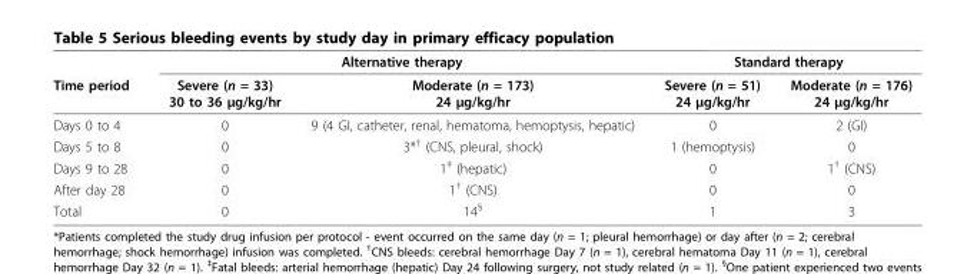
<table><thead><tr><td rowspan="2">Time period</td><td colspan="2">Alternative therapy</td><td colspan="2">Standard therapy</td></tr><tr><td>Severe (n = 33) 30 to 36 μg/kg/hr</td><td>Moderate (n = 173) 24 μg/kg/hr</td><td>Severe (n = 51) 24 μg/kg/hr</td><td>Moderate (n = 176) 24 μg/kg/hr</td></tr></thead><tbody><tr><td>Days 0 to 4</td><td>0</td><td>9 (4 GI, catheter, renal, hematoma, hemoptysis, hepatic)</td><td>0</td><td>2 (GI)</td></tr><tr><td>Days 5 to 8</td><td>0</td><td>3*<sup>†</sup> (CNS, pleural, shock)</td><td>1 (hemoptysis)</td><td>0</td></tr><tr><td>Days 9 to 28</td><td>0</td><td>1<sup>‡</sup> (hepatic)</td><td>0</td><td>1<sup>†</sup> (CNS)</td></tr><tr><td>After day 28</td><td>0</td><td>1<sup>†</sup> (CNS)</td><td>0</td><td>0</td></tr><tr><td>Total</td><td>0</td><td>14<sup>§</sup></td><td>1</td><td>3</td></tr></tbody></table>